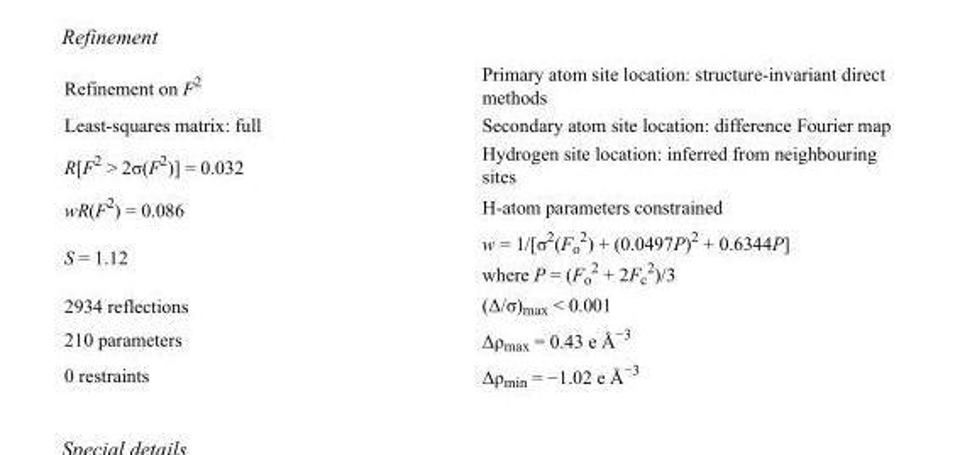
<table><tbody><tr><td>Refinement on F<sup>2</sup></td><td>Primary atom site location: structure-invariant direct methods</td></tr><tr><td>Least-squares matrix: full</td><td>Secondary atom site location: difference Fourier map</td></tr><tr><td>R[F<sup>2</sup> &gt; 2σ(F<sup>2</sup>)] = 0.032</td><td>Hydrogen site location: inferred from neighbouring sites</td></tr><tr><td>wR(F<sup>2</sup>) = 0.086</td><td>H-atom parameters constrained</td></tr><tr><td>S = 1.12</td><td>w = 1/[σ<sup>2</sup>(F<sub>o</sub> <sup>2</sup>) + (0.0497P)<sup>2</sup> + 0.6344P] where P = (F<sub>o</sub> <sup>2</sup> + 2F<sub>c</sub> <sup>2</sup>)/3</td></tr><tr><td>2934 reflections</td><td>(Δ/σ)<sub>max</sub> &lt; 0.001</td></tr><tr><td>210 parameters</td><td>Δρ<sub>max</sub> = 0.43 e Å<sup>−3</sup></td></tr><tr><td>0 restraints</td><td>Δρ<sub>min</sub> = −1.02 e Å<sup>−3</sup></td></tr></tbody></table>